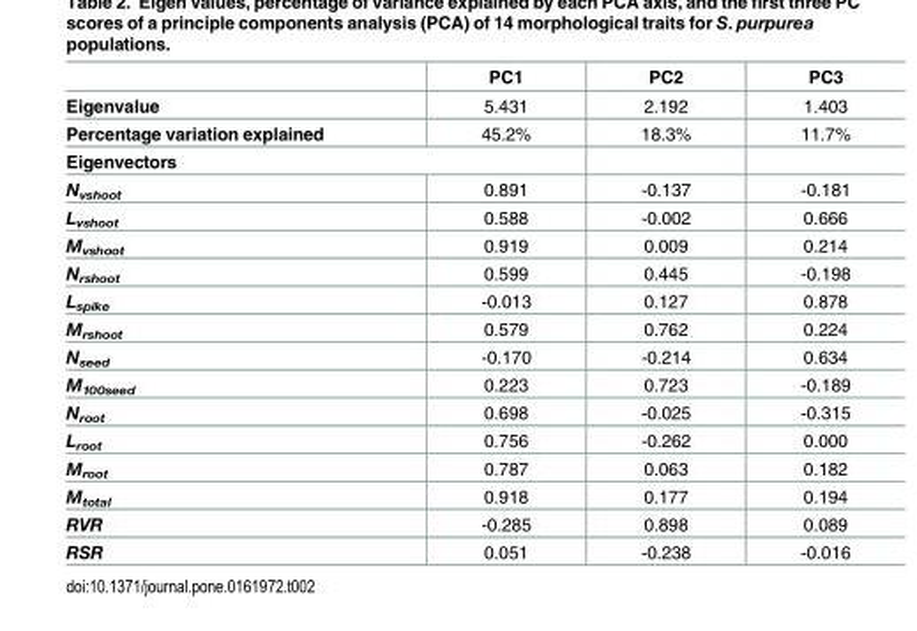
<table><thead><tr><td></td><td>PC1</td><td>PC2</td><td>PC3</td></tr></thead><tbody><tr><td>Eigenvalue</td><td>5.431</td><td>2.192</td><td>1.403</td></tr><tr><td>Percentage variation explained</td><td>45.2%</td><td>18.3%</td><td>11.7%</td></tr><tr><td colspan="4">Eigenvectors</td></tr><tr><td>N<sub>vshoot</sub></td><td>0.891</td><td>-0.137</td><td>-0.181</td></tr><tr><td>L<sub>vshoot</sub></td><td>0.588</td><td>-0.002</td><td>0.666</td></tr><tr><td>M<sub>vshoot</sub></td><td>0.919</td><td>0.009</td><td>0.214</td></tr><tr><td>N<sub>rshoot</sub></td><td>0.599</td><td>0.445</td><td>-0.198</td></tr><tr><td>L<sub>spike</sub></td><td>-0.013</td><td>0.127</td><td>0.878</td></tr><tr><td>M<sub>rshoot</sub></td><td>0.579</td><td>0.762</td><td>0.224</td></tr><tr><td>N<sub>seed</sub></td><td>-0.170</td><td>-0.214</td><td>0.634</td></tr><tr><td>M<sub>100seed</sub></td><td>0.223</td><td>0.723</td><td>-0.189</td></tr><tr><td>N<sub>root</sub></td><td>0.698</td><td>-0.025</td><td>-0.315</td></tr><tr><td>L<sub>root</sub></td><td>0.756</td><td>-0.262</td><td>0.000</td></tr><tr><td>M<sub>root</sub></td><td>0.787</td><td>0.063</td><td>0.182</td></tr><tr><td>M<sub>total</sub></td><td>0.918</td><td>0.177</td><td>0.194</td></tr><tr><td>RVR</td><td>-0.285</td><td>0.898</td><td>0.089</td></tr><tr><td>RSR</td><td>0.051</td><td>-0.238</td><td>-0.016</td></tr></tbody></table>